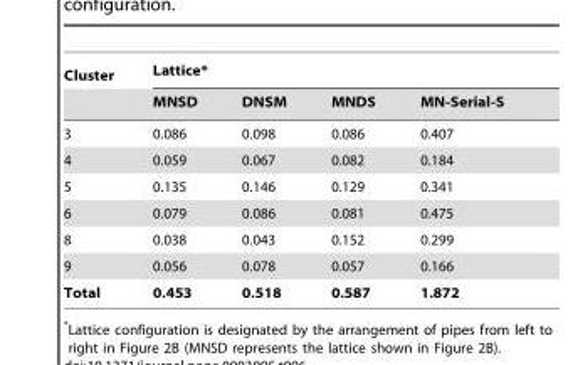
<table><thead><tr><td rowspan="2">Cluster</td><td colspan="4">Lattice*</td></tr><tr><td>MNSD</td><td>DNSM</td><td>MNDS</td><td>MN-Serial-S</td></tr></thead><tbody><tr><td>3</td><td>0.086</td><td>0.098</td><td>0.086</td><td>0.407</td></tr><tr><td>4</td><td>0.059</td><td>0.067</td><td>0.082</td><td>0.184</td></tr><tr><td>5</td><td>0.135</td><td>0.146</td><td>0.129</td><td>0.341</td></tr><tr><td>6</td><td>0.079</td><td>0.086</td><td>0.081</td><td>0.475</td></tr><tr><td>8</td><td>0.038</td><td>0.043</td><td>0.152</td><td>0.299</td></tr><tr><td>9</td><td>0.056</td><td>0.078</td><td>0.057</td><td>0.166</td></tr><tr><td>Total</td><td>0.453</td><td>0.518</td><td>0.587</td><td>1.872</td></tr></tbody></table>